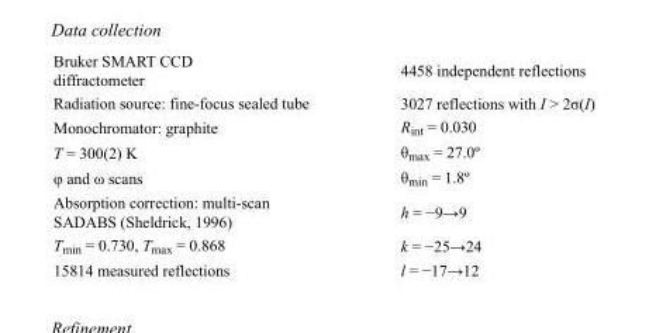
<table><tbody><tr><td>Bruker SMART CCD diffractometer</td><td>4458 independent reflections</td></tr><tr><td>Radiation source: fine-focus sealed tube</td><td>3027 reflections with I &gt; 2σ(I)</td></tr><tr><td>Monochromator: graphite</td><td>R<sub>int</sub> = 0.030</td></tr><tr><td>T = 300(2) K</td><td>θ<sub>max</sub> = 27.0º</td></tr><tr><td>φ and ω scans</td><td>θ<sub>min</sub> = 1.8º</td></tr><tr><td>Absorption correction: multi-scan SADABS (Sheldrick, 1996)</td><td>h = −9→9</td></tr><tr><td>T<sub>min</sub> = 0.730, T<sub>max</sub> = 0.868</td><td>k = −25→24</td></tr><tr><td>15814 measured reflections</td><td>l = −17→12</td></tr></tbody></table>